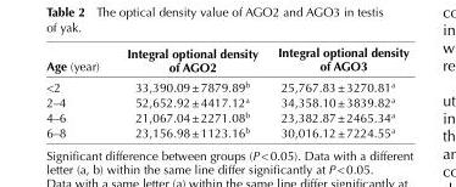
<table><thead><tr><td>Age (year)</td><td>Integral optional density of AGO2</td><td>Integral optional density of AGO3</td></tr></thead><tbody><tr><td>&lt;2</td><td>33,390.09 ± 7879.89<sup>b</sup></td><td>25,767.83 ± 3270.81<sup>a</sup></td></tr><tr><td>2–4</td><td>52,652.92 ± 4417.12<sup>a</sup></td><td>34,358.10 ± 3839.82<sup>a</sup></td></tr><tr><td>4–6</td><td>21,067.04 ± 2271.08<sup>b</sup></td><td>23,382.87 ± 2465.34<sup>a</sup></td></tr><tr><td>6–8</td><td>23,156.98 ± 1123.16<sup>b</sup></td><td>30,016.12 ± 7224.55<sup>a</sup></td></tr></tbody></table>